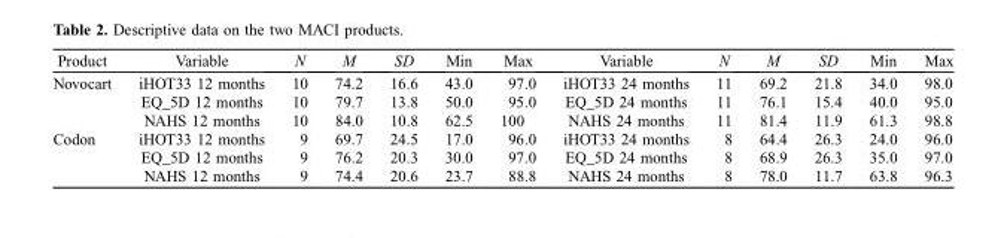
<table><thead><tr><td>Product</td><td>Variable</td><td>N</td><td>M</td><td>SD</td><td>Min</td><td>Max</td><td>Variable</td><td>N</td><td>M</td><td>SD</td><td>Min</td><td>Max</td></tr></thead><tbody><tr><td rowspan="3">Novocart</td><td>iHOT33 12 months</td><td>10</td><td>74.2</td><td>16.6</td><td>43.0</td><td>97.0</td><td>iHOT33 24 months</td><td>11</td><td>69.2</td><td>21.8</td><td>34.0</td><td>98.0</td></tr><tr><td>EQ_5D 12 months</td><td>10</td><td>79.7</td><td>13.8</td><td>50.0</td><td>95.0</td><td>EQ_5D 24 months</td><td>11</td><td>76.1</td><td>15.4</td><td>40.0</td><td>95.0</td></tr><tr><td>NAHS 12 months</td><td>10</td><td>84.0</td><td>10.8</td><td>62.5</td><td>100</td><td>NAHS 24 months</td><td>11</td><td>81.4</td><td>11.9</td><td>61.3</td><td>98.8</td></tr><tr><td rowspan="3">Codon</td><td>iHOT33 12 months</td><td>9</td><td>69.7</td><td>24.5</td><td>17.0</td><td>96.0</td><td>iHOT33 24 months</td><td>8</td><td>64.4</td><td>26.3</td><td>24.0</td><td>96.0</td></tr><tr><td>EQ_5D 12 months</td><td>9</td><td>76.2</td><td>20.3</td><td>30.0</td><td>97.0</td><td>EQ_5D 24 months</td><td>8</td><td>68.9</td><td>26.3</td><td>35.0</td><td>97.0</td></tr><tr><td>NAHS 12 months</td><td>9</td><td>74.4</td><td>20.6</td><td>23.7</td><td>88.8</td><td>NAHS 24 months</td><td>8</td><td>78.0</td><td>11.7</td><td>63.8</td><td>96.3</td></tr></tbody></table>